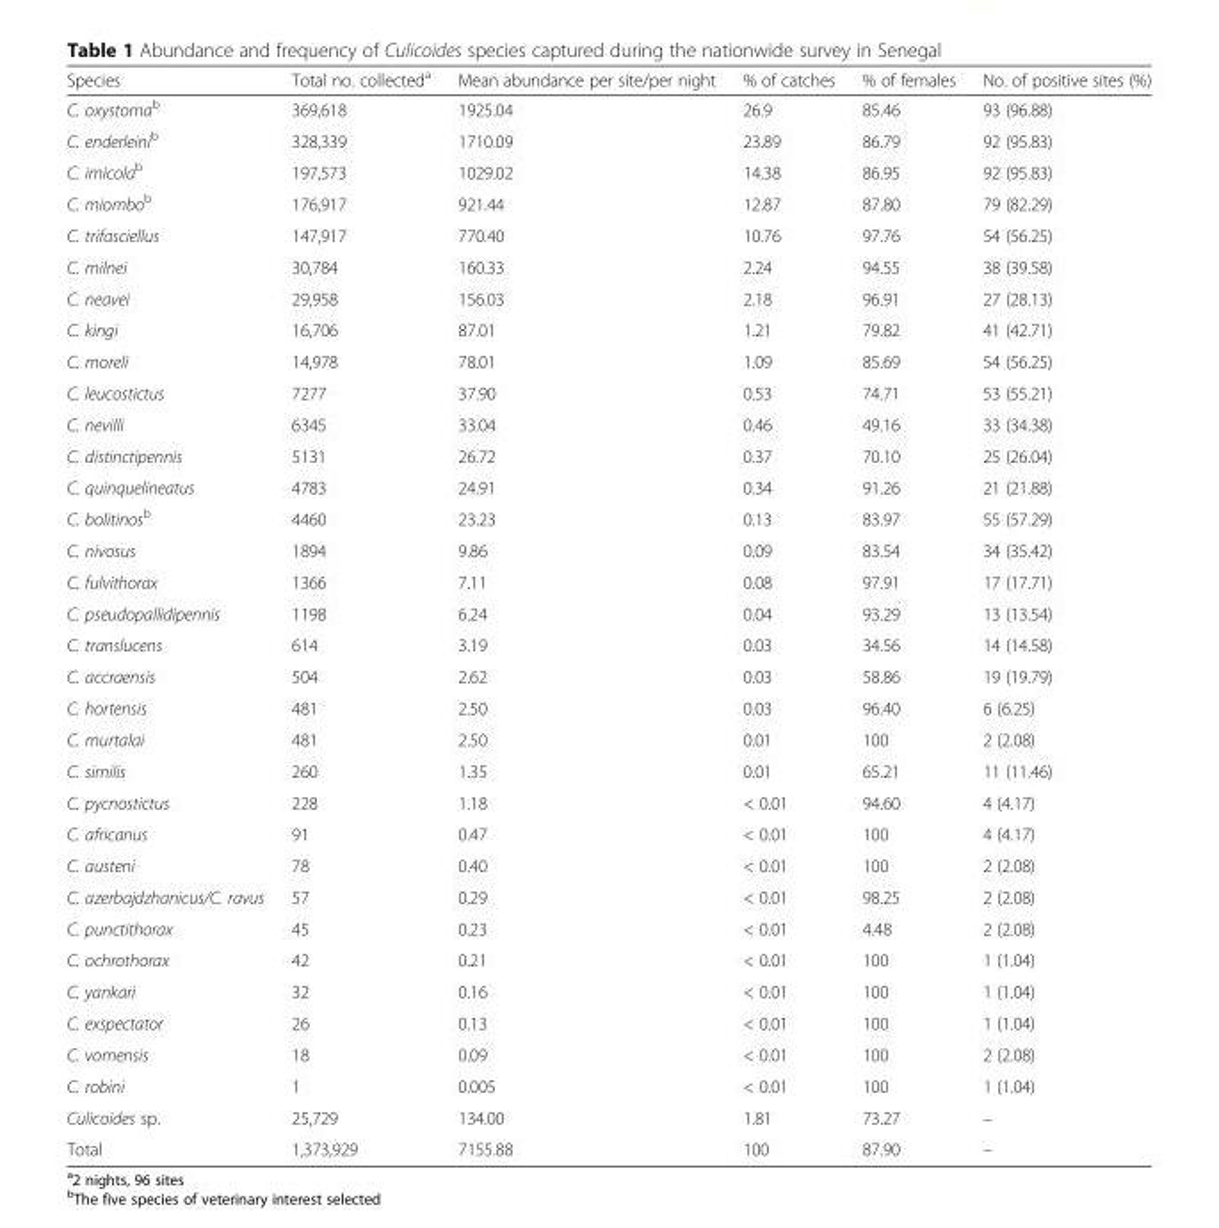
<table><thead><tr><td>Species</td><td>Total no. collected<sup>a</sup></td><td>Mean abundance per site/per night</td><td>% of catches</td><td>% of females</td><td>No. of positive sites (%)</td></tr></thead><tbody><tr><td>C. oxystoma<sup>b</sup></td><td>369,618</td><td>1925.04</td><td>26.9</td><td>85.46</td><td>93 (96.88)</td></tr><tr><td>C. enderleini<sup>b</sup></td><td>328,339</td><td>1710.09</td><td>23.89</td><td>86.79</td><td>92 (95.83)</td></tr><tr><td>C. imicola<sup>b</sup></td><td>197,573</td><td>1029.02</td><td>14.38</td><td>86.95</td><td>92 (95.83)</td></tr><tr><td>C. miombo<sup>b</sup></td><td>176,917</td><td>921.44</td><td>12.87</td><td>87.80</td><td>79 (82.29)</td></tr><tr><td>C. trifasciellus</td><td>147,917</td><td>770.40</td><td>10.76</td><td>97.76</td><td>54 (56.25)</td></tr><tr><td>C. milnei</td><td>30,784</td><td>160.33</td><td>2.24</td><td>94.55</td><td>38 (39.58)</td></tr><tr><td>C. neavei</td><td>29,958</td><td>156.03</td><td>2.18</td><td>96.91</td><td>27 (28.13)</td></tr><tr><td>C. kingi</td><td>16,706</td><td>87.01</td><td>1.21</td><td>79.82</td><td>41 (42.71)</td></tr><tr><td>C. moreli</td><td>14,978</td><td>78.01</td><td>1.09</td><td>85.69</td><td>54 (56.25)</td></tr><tr><td>C. leucostictus</td><td>7277</td><td>37.90</td><td>0.53</td><td>74.71</td><td>53 (55.21)</td></tr><tr><td>C. nevilli</td><td>6345</td><td>33.04</td><td>0.46</td><td>49.16</td><td>33 (34.38)</td></tr><tr><td>C. distinctipennis</td><td>5131</td><td>26.72</td><td>0.37</td><td>70.10</td><td>25 (26.04)</td></tr><tr><td>C. quinquelineatus</td><td>4783</td><td>24.91</td><td>0.34</td><td>91.26</td><td>21 (21.88)</td></tr><tr><td>C. bolitinos<sup>b</sup></td><td>4460</td><td>23.23</td><td>0.13</td><td>83.97</td><td>55 (57.29)</td></tr><tr><td>C. nivosus</td><td>1894</td><td>9.86</td><td>0.09</td><td>83.54</td><td>34 (35.42)</td></tr><tr><td>C. fulvithorax</td><td>1366</td><td>7.11</td><td>0.08</td><td>97.91</td><td>17 (17.71)</td></tr><tr><td>C. pseudopallidipennis</td><td>1198</td><td>6.24</td><td>0.04</td><td>93.29</td><td>13 (13.54)</td></tr><tr><td>C. translucens</td><td>614</td><td>3.19</td><td>0.03</td><td>34.56</td><td>14 (14.58)</td></tr><tr><td>C. accraensis</td><td>504</td><td>2.62</td><td>0.03</td><td>58.86</td><td>19 (19.79)</td></tr><tr><td>C. hortensis</td><td>481</td><td>2.50</td><td>0.03</td><td>96.40</td><td>6 (6.25)</td></tr><tr><td>C. murtalai</td><td>481</td><td>2.50</td><td>0.01</td><td>100</td><td>2 (2.08)</td></tr><tr><td>C. similis</td><td>260</td><td>1.35</td><td>0.01</td><td>65.21</td><td>11 (11.46)</td></tr><tr><td>C. pycnostictus</td><td>228</td><td>1.18</td><td>&lt; 0.01</td><td>94.60</td><td>4 (4.17)</td></tr><tr><td>C. africanus</td><td>91</td><td>0.47</td><td>&lt; 0.01</td><td>100</td><td>4 (4.17)</td></tr><tr><td>C. austeni</td><td>78</td><td>0.40</td><td>&lt; 0.01</td><td>100</td><td>2 (2.08)</td></tr><tr><td>C. azerbajdzhanicus/C. ravus</td><td>57</td><td>0.29</td><td>&lt; 0.01</td><td>98.25</td><td>2 (2.08)</td></tr><tr><td>C. punctithorax</td><td>45</td><td>0.23</td><td>&lt; 0.01</td><td>4.48</td><td>2 (2.08)</td></tr><tr><td>C. ochrothorax</td><td>42</td><td>0.21</td><td>&lt; 0.01</td><td>100</td><td>1 (1.04)</td></tr><tr><td>C. yankari</td><td>32</td><td>0.16</td><td>&lt; 0.01</td><td>100</td><td>1 (1.04)</td></tr><tr><td>C. exspectator</td><td>26</td><td>0.13</td><td>&lt; 0.01</td><td>100</td><td>1 (1.04)</td></tr><tr><td>C. vomensis</td><td>18</td><td>0.09</td><td>&lt; 0.01</td><td>100</td><td>2 (2.08)</td></tr><tr><td>C. robini</td><td>1</td><td>0.005</td><td>&lt; 0.01</td><td>100</td><td>1 (1.04)</td></tr><tr><td>Culicoides sp.</td><td>25,729</td><td>134.00</td><td>1.81</td><td>73.27</td><td>–</td></tr><tr><td>Total</td><td>1,373,929</td><td>7155.88</td><td>100</td><td>87.90</td><td>–</td></tr></tbody></table>